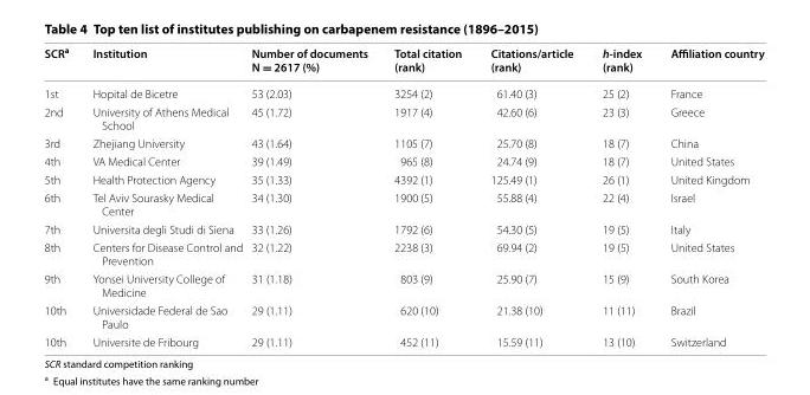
<table><thead><tr><td>SCR<sup>a</sup></td><td>Institution</td><td>Number of documents N = 2617 (%)</td><td>Total citation (rank)</td><td>Citations/article (rank)</td><td>h-index (rank)</td><td>Affiliation country</td></tr></thead><tbody><tr><td>1st</td><td>Hopital de Bicetre</td><td>53 (2.03)</td><td>3254 (2)</td><td>61.40 (3)</td><td>25 (2)</td><td>France</td></tr><tr><td>2nd</td><td>University of Athens Medical School</td><td>45 (1.72)</td><td>1917 (4)</td><td>42.60 (6)</td><td>23 (3)</td><td>Greece</td></tr><tr><td>3rd</td><td>Zhejiang University</td><td>43 (1.64)</td><td>1105 (7)</td><td>25.70 (8)</td><td>18 (7)</td><td>China</td></tr><tr><td>4th</td><td>VA Medical Center</td><td>39 (1.49)</td><td>965 (8)</td><td>24.74 (9)</td><td>18 (7)</td><td>United States</td></tr><tr><td>5th</td><td>Health Protection Agency</td><td>35 (1.33)</td><td>4392 (1)</td><td>125.49 (1)</td><td>26 (1)</td><td>United Kingdom</td></tr><tr><td>6th</td><td>Tel Aviv Sourasky Medical Center</td><td>34 (1.30)</td><td>1900 (5)</td><td>55.88 (4)</td><td>22 (4)</td><td>Israel</td></tr><tr><td>7th</td><td>Universita degli Studi di Siena</td><td>33 (1.26)</td><td>1792 (6)</td><td>54.30 (5)</td><td>19 (5)</td><td>Italy</td></tr><tr><td>8th</td><td>Centers for Disease Control and Prevention</td><td>32 (1.22)</td><td>2238 (3)</td><td>69.94 (2)</td><td>19 (5)</td><td>United States</td></tr><tr><td>9th</td><td>Yonsei University College of Medicine</td><td>31 (1.18)</td><td>803 (9)</td><td>25.90 (7)</td><td>15 (9)</td><td>South Korea</td></tr><tr><td>10th</td><td>Universidade Federal de Sao Paulo</td><td>29 (1.11)</td><td>620 (10)</td><td>21.38 (10)</td><td>11 (11)</td><td>Brazil</td></tr><tr><td>10th</td><td>Universite de Fribourg</td><td>29 (1.11)</td><td>452 (11)</td><td>15.59 (11)</td><td>13 (10)</td><td>Switzerland</td></tr></tbody></table>